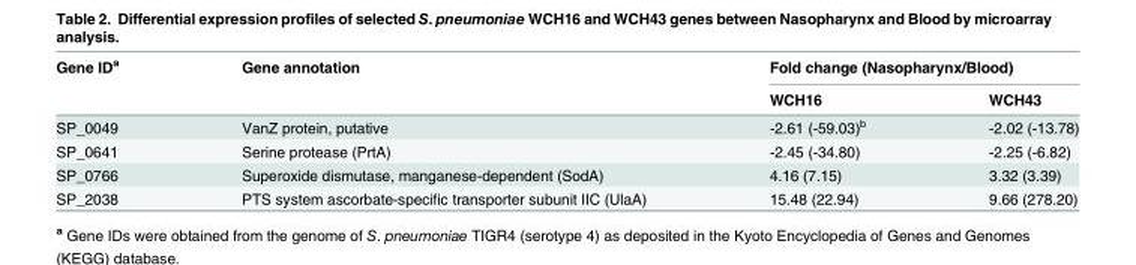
<table><thead><tr><td rowspan="2">Gene ID<sup>a</sup></td><td rowspan="2">Gene annotation</td><td colspan="2">Fold change (Nasopharynx/Blood)</td></tr><tr><td>WCH16</td><td>WCH43</td></tr></thead><tbody><tr><td>SP_0049</td><td>VanZ protein, putative</td><td>-2.61 (-59.03)<sup>b</sup></td><td>-2.02 (-13.78)</td></tr><tr><td>SP_0641</td><td>Serine protease (PrtA)</td><td>-2.45 (-34.80)</td><td>-2.25 (-6.82)</td></tr><tr><td>SP_0766</td><td>Superoxide dismutase, manganese-dependent (SodA)</td><td>4.16 (7.15)</td><td>3.32 (3.39)</td></tr><tr><td>SP_2038</td><td>PTS system ascorbate-specific transporter subunit IIC (UlaA)</td><td>15.48 (22.94)</td><td>9.66 (278.20)</td></tr></tbody></table>